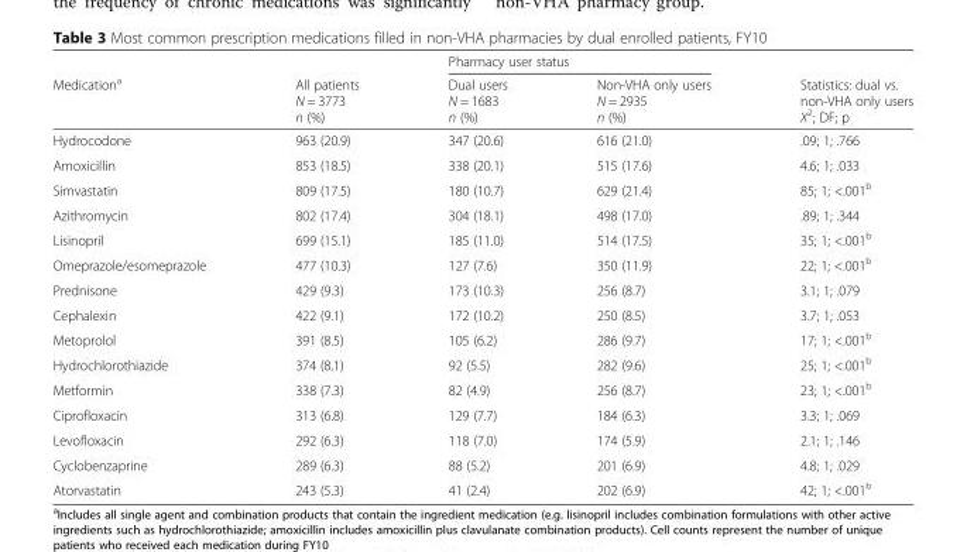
<table><thead><tr><td rowspan="2">Medication<sup>a</sup></td><td rowspan="2">All patients N = 3773 n (%)</td><td colspan="2">Pharmacy user status</td><td rowspan="2">Statistics: dual vs. non-VHA only users X<sup>2</sup>; DF; p</td></tr><tr><td>Dual users N = 1683 n (%)</td><td>Non-VHA only users N = 2935 n (%)</td></tr></thead><tbody><tr><td>Hydrocodone</td><td>963 (20.9)</td><td>347 (20.6)</td><td>616 (21.0)</td><td>.09; 1; .766</td></tr><tr><td>Amoxicillin</td><td>853 (18.5)</td><td>338 (20.1)</td><td>515 (17.6)</td><td>4.6; 1; .033</td></tr><tr><td>Simvastatin</td><td>809 (17.5)</td><td>180 (10.7)</td><td>629 (21.4)</td><td>85; 1; &lt;.001<sup>b</sup></td></tr><tr><td>Azithromycin</td><td>802 (17.4)</td><td>304 (18.1)</td><td>498 (17.0)</td><td>.89; 1; .344</td></tr><tr><td>Lisinopril</td><td>699 (15.1)</td><td>185 (11.0)</td><td>514 (17.5)</td><td>35; 1; &lt;.001<sup>b</sup></td></tr><tr><td>Omeprazole/esomeprazole</td><td>477 (10.3)</td><td>127 (7.6)</td><td>350 (11.9)</td><td>22; 1; &lt;.001<sup>b</sup></td></tr><tr><td>Prednisone</td><td>429 (9.3)</td><td>173 (10.3)</td><td>256 (8.7)</td><td>3.1; 1; .079</td></tr><tr><td>Cephalexin</td><td>422 (9.1)</td><td>172 (10.2)</td><td>250 (8.5)</td><td>3.7; 1; .053</td></tr><tr><td>Metoprolol</td><td>391 (8.5)</td><td>105 (6.2)</td><td>286 (9.7)</td><td>17; 1; &lt;.001<sup>b</sup></td></tr><tr><td>Hydrochlorothiazide</td><td>374 (8.1)</td><td>92 (5.5)</td><td>282 (9.6)</td><td>25; 1; &lt;.001<sup>b</sup></td></tr><tr><td>Metformin</td><td>338 (7.3)</td><td>82 (4.9)</td><td>256 (8.7)</td><td>23; 1; &lt;.001<sup>b</sup></td></tr><tr><td>Ciprofloxacin</td><td>313 (6.8)</td><td>129 (7.7)</td><td>184 (6.3)</td><td>3.3; 1; .069</td></tr><tr><td>Levofloxacin</td><td>292 (6.3)</td><td>118 (7.0)</td><td>174 (5.9)</td><td>2.1; 1; .146</td></tr><tr><td>Cyclobenzaprine</td><td>289 (6.3)</td><td>88 (5.2)</td><td>201 (6.9)</td><td>4.8; 1; .029</td></tr><tr><td>Atorvastatin</td><td>243 (5.3)</td><td>41 (2.4)</td><td>202 (6.9)</td><td>42; 1; &lt;.001<sup>b</sup></td></tr></tbody></table>